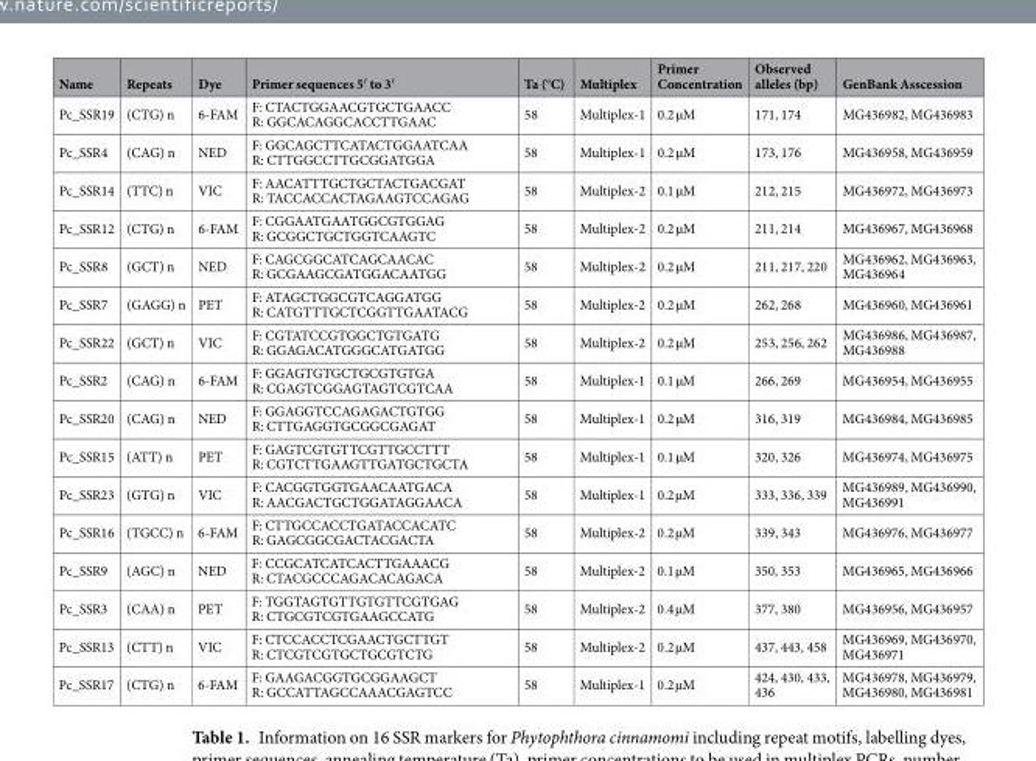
<table><thead><tr><td>Name</td><td>Repeats</td><td>Dye</td><td>Primer sequences 5′ to 3′</td><td>Ta (°C)</td><td>Multiplex</td><td>Primer Concentration</td><td>Observed alleles (bp)</td><td>GenBank Asscession</td></tr></thead><tbody><tr><td>Pc_SSR19</td><td>(CTG) n</td><td>6-FAM</td><td>F: CTACTGGAACGTGCTGAACC R: GGCACAGGCACCTTGAAC</td><td>58</td><td>Multiplex-1</td><td>0.2 µM</td><td>171, 174</td><td>MG436982, MG436983</td></tr><tr><td>Pc_SSR4</td><td>(CAG) n</td><td>NED</td><td>F: GGCAGCTTCATACTGGAATCAA R: CTTGGCCTTGCGGATGGA</td><td>58</td><td>Multiplex-1</td><td>0.2 µM</td><td>173, 176</td><td>MG436958, MG436959</td></tr><tr><td>Pc_SSR14</td><td>(TTC) n</td><td>VIC</td><td>F: AACATTTGCTGCTACTGACGAT R: TACCACCACTAGAAGTCCAGAG</td><td>58</td><td>Multiplex-2</td><td>0.1 µM</td><td>212, 215</td><td>MG436972, MG436973</td></tr><tr><td>Pc_SSR12</td><td>(CTG) n</td><td>6-FAM</td><td>F: CGGAATGAATGGCGTGGAG R: GCGGCTGCTGGTCAAGTC</td><td>58</td><td>Multiplex-2</td><td>0.2 µM</td><td>211, 214</td><td>MG436967, MG436968</td></tr><tr><td>Pc_SSR8</td><td>(GCT) n</td><td>NED</td><td>F: CAGCGGCATCAGCAACAC R: GCGAAGCGATGGACAATGG</td><td>58</td><td>Multiplex-2</td><td>0.2 µM</td><td>211, 217, 220</td><td>MG436962, MG436963, MG436964</td></tr><tr><td>Pc_SSR7</td><td>(GAGG) n</td><td>PET</td><td>F: ATAGCTGGCGTCAGGATGG R: CATGTTTGCTCGGTTGAATACG</td><td>58</td><td>Multiplex-2</td><td>0.2 µM</td><td>262, 268</td><td>MG436960, MG436961</td></tr><tr><td>Pc_SSR22</td><td>(GCT) n</td><td>VIC</td><td>F: CGTATCCGTGGCTGTGATG R: GGAGACATGGGCATGATGG</td><td>58</td><td>Multiplex-2</td><td>0.2 µM</td><td>253, 256, 262</td><td>MG436986, MG436987, MG436988</td></tr><tr><td>Pc_SSR2</td><td>(CAG) n</td><td>6-FAM</td><td>F: GGAGTGTGCTGCGTGTGA R: CGAGTCGGAGTAGTCGTCAA</td><td>58</td><td>Multiplex-1</td><td>0.1 µM</td><td>266, 269</td><td>MG436954, MG436955</td></tr><tr><td>Pc_SSR20</td><td>(CAG) n</td><td>NED</td><td>F: GGAGGTCCAGAGACTGTGG R: CTTGAGGTGCGGCGAGAT</td><td>58</td><td>Multiplex-1</td><td>0.2 µM</td><td>316, 319</td><td>MG436984, MG436985</td></tr><tr><td>Pc_SSR15</td><td>(ATT) n</td><td>PET</td><td>F: GAGTCGTGTTCGTTGCCTTT R: CGTCTTGAAGTTGATGCTGCTA</td><td>58</td><td>Multiplex-1</td><td>0.1 µM</td><td>320, 326</td><td>MG436974, MG436975</td></tr><tr><td>Pc_SSR23</td><td>(GTG) n</td><td>VIC</td><td>F: CACGGTGGTGAACAATGACA R: AACGACTGCTGGATAGGAACA</td><td>58</td><td>Multiplex-1</td><td>0.2 µM</td><td>333, 336, 339</td><td>MG436989, MG436990, MG436991</td></tr><tr><td>Pc_SSR16</td><td>(TGCC) n</td><td>6-FAM</td><td>F: CTTGCCACCTGATACCACATC R: GAGCGGCGACTACGACTA</td><td>58</td><td>Multiplex-2</td><td>0.2 µM</td><td>339, 343</td><td>MG436976, MG436977</td></tr><tr><td>Pc_SSR9</td><td>(AGC) n</td><td>NED</td><td>F: CCGCATCATCACTTGAAACG R: CTACGCCCAGACACAGACA</td><td>58</td><td>Multiplex-2</td><td>0.1 µM</td><td>350, 353</td><td>MG436965, MG436966</td></tr><tr><td>Pc_SSR3</td><td>(CAA) n</td><td>PET</td><td>F: TGGTAGTGTTGTGTTCGTGAG R: CTGCGTCGTGAAGCCATG</td><td>58</td><td>Multiplex-2</td><td>0.4 µM</td><td>377, 380</td><td>MG436956, MG436957</td></tr><tr><td>Pc_SSR13</td><td>(CTT) n</td><td>VIC</td><td>F: CTCCACCTCGAACTGCTTGT R: CTCGTCGTGCTGCGTCTG</td><td>58</td><td>Multiplex-2</td><td>0.2 µM</td><td>437, 443, 458</td><td>MG436969, MG436970, MG436971</td></tr><tr><td>Pc_SSR17</td><td>(CTG) n</td><td>6-FAM</td><td>F: GAAGACGGTGCGGAAGCT R: GCCATTAGCCAAACGAGTCC</td><td>58</td><td>Multiplex-1</td><td>0.2 µM</td><td>424, 430, 433, 436</td><td>MG436978, MG436979, MG436980, MG436981</td></tr></tbody></table>